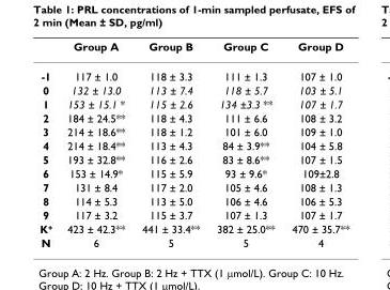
<table><thead><tr><td></td><td>Group A</td><td>Group B</td><td>Group C</td><td>Group D</td></tr></thead><tbody><tr><td>-1</td><td>117 ± 1.0</td><td>118 ± 3.3</td><td>111 ± 1.3</td><td>107 ± 1.0</td></tr><tr><td>0</td><td>132 ± 13.0</td><td>113 ± 7.4</td><td>118 ± 5.7</td><td>103 ± 5.1</td></tr><tr><td>1</td><td>153 ± 15.1 *</td><td>115 ± 2.6</td><td>134 ±3.3 **</td><td>107 ± 1.7</td></tr><tr><td>2</td><td>184 ± 24.5**</td><td>118 ± 4.3</td><td>111 ± 6.6</td><td>108 ± 3.2</td></tr><tr><td>3</td><td>214 ± 18.6**</td><td>118 ± 1.2</td><td>101 ± 6.0</td><td>109 ± 1.0</td></tr><tr><td>4</td><td>214 ± 18.4**</td><td>113 ± 4.3</td><td>84 ± 3.9**</td><td>104 ± 5.8</td></tr><tr><td>5</td><td>193 ± 32.8**</td><td>116 ± 2.6</td><td>83 ± 8.6**</td><td>107 ± 1.5</td></tr><tr><td>6</td><td>153 ± 14.9*</td><td>115 ± 5.9</td><td>93 ± 9.6*</td><td>109±2.8</td></tr><tr><td>7</td><td>131 ± 8.4</td><td>117 ± 2.0</td><td>105 ± 4.6</td><td>108 ± 1.3</td></tr><tr><td>8</td><td>114 ± 5.3</td><td>113 ± 5.0</td><td>106 ± 4.6</td><td>106 ± 5.3</td></tr><tr><td>9</td><td>117 ± 3.2</td><td>115 ± 3.7</td><td>107 ± 1.3</td><td>107 ± 1.7</td></tr><tr><td>K<sup>+</sup></td><td>423 ± 42.3**</td><td>441 ± 33.4**</td><td>382 ± 25.0**</td><td>470 ± 35.7**</td></tr><tr><td>N</td><td>6</td><td>5</td><td>5</td><td>4</td></tr></tbody></table>